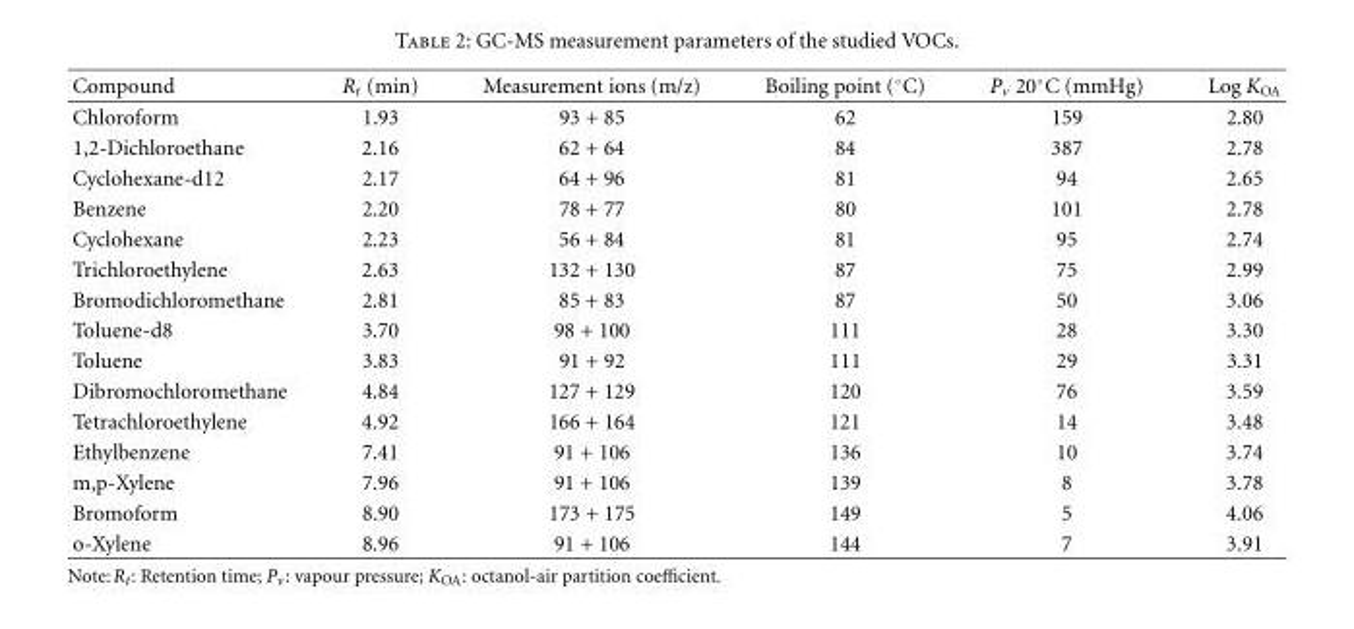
<table><thead><tr><td>Compound</td><td>R<sub>t</sub> (min)</td><td>Measurement ions (m/z)</td><td>Boiling point (◦C)</td><td>Pv 20◦C (mmHg)</td><td>Log K<sub>OA</sub></td></tr></thead><tbody><tr><td>Chloroform</td><td>1.93</td><td>93 + 85</td><td>62</td><td>159</td><td>2.80</td></tr><tr><td>1,2-Dichloroethane</td><td>2.16</td><td>62 + 64</td><td>84</td><td>387</td><td>2.78</td></tr><tr><td>Cyclohexane-d12</td><td>2.17</td><td>64 + 96</td><td>81</td><td>94</td><td>2.65</td></tr><tr><td>Benzene</td><td>2.20</td><td>78 + 77</td><td>80</td><td>101</td><td>2.78</td></tr><tr><td>Cyclohexane</td><td>2.23</td><td>56 + 84</td><td>81</td><td>95</td><td>2.74</td></tr><tr><td>Trichloroethylene</td><td>2.63</td><td>132 + 130</td><td>87</td><td>75</td><td>2.99</td></tr><tr><td>Bromodichloromethane</td><td>2.81</td><td>85 + 83</td><td>87</td><td>50</td><td>3.06</td></tr><tr><td>Toluene-d8</td><td>3.70</td><td>98 + 100</td><td>111</td><td>28</td><td>3.30</td></tr><tr><td>Toluene</td><td>3.83</td><td>91 + 92</td><td>111</td><td>29</td><td>3.31</td></tr><tr><td>Dibromochloromethane</td><td>4.84</td><td>127 + 129</td><td>120</td><td>76</td><td>3.59</td></tr><tr><td>Tetrachloroethylene</td><td>4.92</td><td>166 + 164</td><td>121</td><td>14</td><td>3.48</td></tr><tr><td>Ethylbenzene</td><td>7.41</td><td>91 + 106</td><td>136</td><td>10</td><td>3.74</td></tr><tr><td>m,p-Xylene</td><td>7.96</td><td>91 + 106</td><td>139</td><td>8</td><td>3.78</td></tr><tr><td>Bromoform</td><td>8.90</td><td>173 + 175</td><td>149</td><td>5</td><td>4.06</td></tr><tr><td>o-Xylene</td><td>8.96</td><td>91 + 106</td><td>144</td><td>7</td><td>3.91</td></tr></tbody></table>